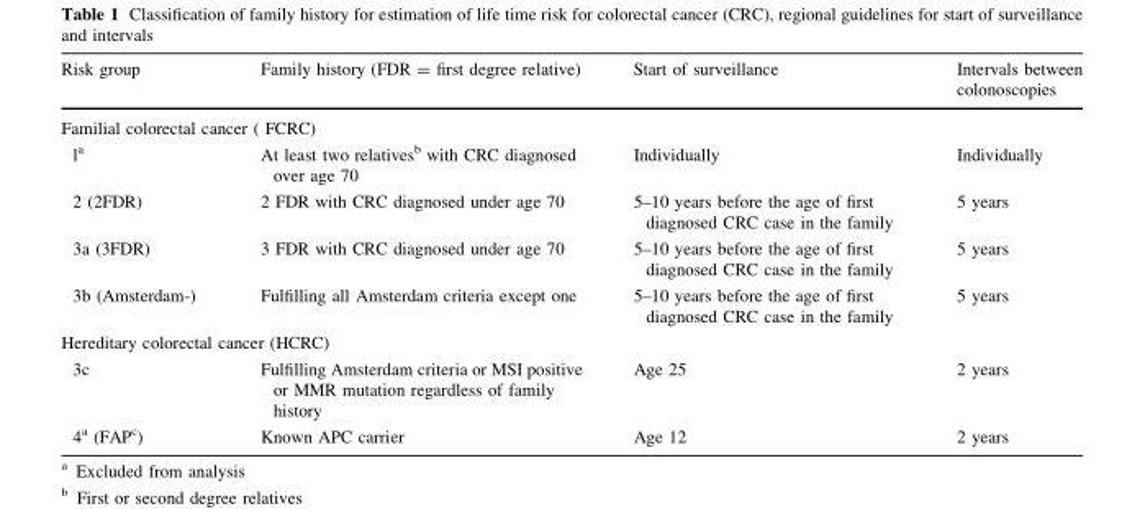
<table><thead><tr><td>Risk group</td><td>Family history (FDR = first degree relative)</td><td>Start of surveillance</td><td>Intervals between colonoscopies</td></tr></thead><tbody><tr><td colspan="4">Familial colorectal cancer ( FCRC)</td></tr><tr><td>l<sup>a</sup></td><td>At least two relatives<sup>b</sup> with CRC diagnosed over age 70</td><td>Individually</td><td>Individually</td></tr><tr><td>2 (2FDR)</td><td>2 FDR with CRC diagnosed under age 70</td><td>5–10 years before the age of first diagnosed CRC case in the family</td><td>5 years</td></tr><tr><td>3a (3FDR)</td><td>3 FDR with CRC diagnosed under age 70</td><td>5–10 years before the age of first diagnosed CRC case in the family</td><td>5 years</td></tr><tr><td>3b (Amsterdam-)</td><td>Fulfilling all Amsterdam criteria except one</td><td>5–10 years before the age of first diagnosed CRC case in the family</td><td>5 years</td></tr><tr><td colspan="4">Hereditary colorectal cancer (HCRC)</td></tr><tr><td>3c</td><td>Fulfilling Amsterdam criteria or MSI positive or MMR mutation regardless of family history</td><td>Age 25</td><td>2 years</td></tr><tr><td>4<sup>a</sup> (FAP<sup>c</sup>)</td><td>Known APC carrier</td><td>Age 12</td><td>2 years</td></tr></tbody></table>